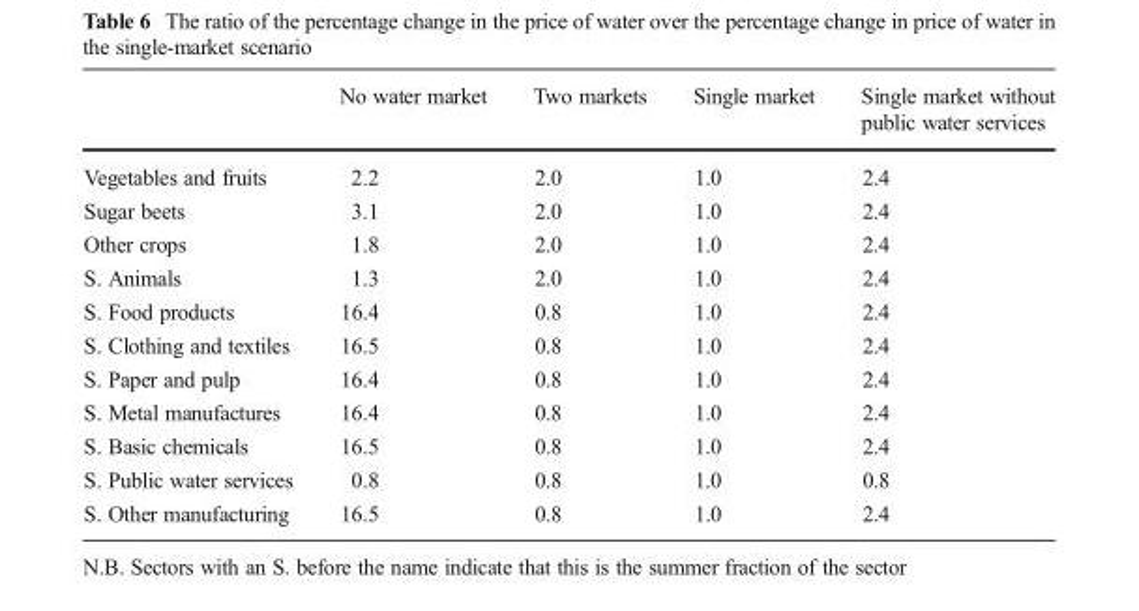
<table><thead><tr><td></td><td>No water market</td><td>Two markets</td><td>Single market</td><td>Single market without public water services</td></tr></thead><tbody><tr><td>Vegetables and fruits</td><td>2.2</td><td>2.0</td><td>1.0</td><td>2.4</td></tr><tr><td>Sugar beets</td><td>3.1</td><td>2.0</td><td>1.0</td><td>2.4</td></tr><tr><td>Other crops</td><td>1.8</td><td>2.0</td><td>1.0</td><td>2.4</td></tr><tr><td>S. Animals</td><td>1.3</td><td>2.0</td><td>1.0</td><td>2.4</td></tr><tr><td>S. Food products</td><td>16.4</td><td>0.8</td><td>1.0</td><td>2.4</td></tr><tr><td>S. Clothing and textiles</td><td>16.5</td><td>0.8</td><td>1.0</td><td>2.4</td></tr><tr><td>S. Paper and pulp</td><td>16.4</td><td>0.8</td><td>1.0</td><td>2.4</td></tr><tr><td>S. Metal manufactures</td><td>16.4</td><td>0.8</td><td>1.0</td><td>2.4</td></tr><tr><td>S. Basic chemicals</td><td>16.5</td><td>0.8</td><td>1.0</td><td>2.4</td></tr><tr><td>S. Public water services</td><td>0.8</td><td>0.8</td><td>1.0</td><td>0.8</td></tr><tr><td>S. Other manufacturing</td><td>16.5</td><td>0.8</td><td>1.0</td><td>2.4</td></tr></tbody></table>